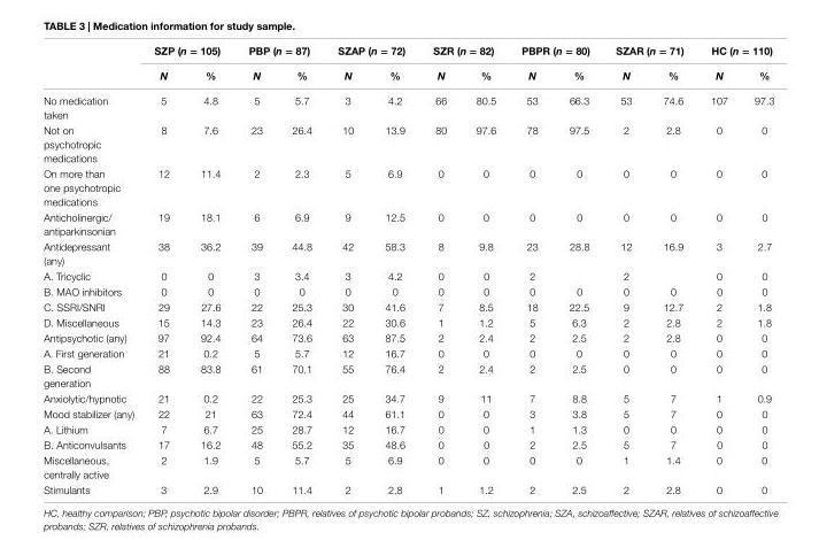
<table><thead><tr><td rowspan="2"></td><td colspan="2">sZP (n = 105)</td><td colspan="2">PBP (n = 87)</td><td colspan="2">sZaP (n = 72)</td><td colspan="2">sZr (n = 82)</td><td colspan="2">PBPr (n = 80)</td><td colspan="2">sZar (n = 71)</td><td colspan="2">hc (n = 110)</td></tr><tr><td>N</td><td>%</td><td>N</td><td>%</td><td>N</td><td>%</td><td>N</td><td>%</td><td>N</td><td>%</td><td>N</td><td>%</td><td>N</td><td>%</td></tr></thead><tbody><tr><td>No medication taken</td><td>5</td><td>4.8</td><td>5</td><td>5.7</td><td>3</td><td>4.2</td><td>66</td><td>80.5</td><td>53</td><td>66.3</td><td>53</td><td>74.6</td><td>107</td><td>97.3</td></tr><tr><td>Not on psychotropic medications</td><td>8</td><td>7.6</td><td>23</td><td>26.4</td><td>10</td><td>13.9</td><td>80</td><td>97.6</td><td>78</td><td>97.5</td><td>2</td><td>2.8</td><td>0</td><td>0</td></tr><tr><td>On more than one psychotropic medications</td><td>12</td><td>11.4</td><td>2</td><td>2.3</td><td>5</td><td>6.9</td><td>0</td><td>0</td><td>0</td><td>0</td><td>0</td><td>0</td><td>0</td><td>0</td></tr><tr><td>Anticholinergic/ antiparkinsonian</td><td>19</td><td>18.1</td><td>6</td><td>6.9</td><td>9</td><td>12.5</td><td>0</td><td>0</td><td>0</td><td>0</td><td>0</td><td>0</td><td>0</td><td>0</td></tr><tr><td>Antidepressant (any)</td><td>38</td><td>36.2</td><td>39</td><td>44.8</td><td>42</td><td>58.3</td><td>8</td><td>9.8</td><td>23</td><td>28.8</td><td>12</td><td>16.9</td><td>3</td><td>2.7</td></tr><tr><td>A. Tricyclic</td><td>0</td><td>0</td><td>3</td><td>3.4</td><td>3</td><td>4.2</td><td>0</td><td>0</td><td>2</td><td></td><td>2</td><td></td><td>0</td><td>0</td></tr><tr><td>B. MAO inhibitors</td><td>0</td><td>0</td><td>0</td><td>0</td><td>0</td><td>0</td><td>0</td><td>0</td><td>0</td><td>0</td><td>0</td><td>0</td><td>0</td><td>0</td></tr><tr><td>C. SSRI/SNRI</td><td>29</td><td>27.6</td><td>22</td><td>25.3</td><td>30</td><td>41.6</td><td>7</td><td>8.5</td><td>18</td><td>22.5</td><td>9</td><td>12.7</td><td>2</td><td>1.8</td></tr><tr><td>D. Miscellaneous</td><td>15</td><td>14.3</td><td>23</td><td>26.4</td><td>22</td><td>30.6</td><td>1</td><td>1.2</td><td>5</td><td>6.3</td><td>2</td><td>2.8</td><td>2</td><td>1.8</td></tr><tr><td>Antipsychotic (any)</td><td>97</td><td>92.4</td><td>64</td><td>73.6</td><td>63</td><td>87.5</td><td>2</td><td>2.4</td><td>2</td><td>2.5</td><td>2</td><td>2.8</td><td>0</td><td>0</td></tr><tr><td>A. First generation</td><td>21</td><td>0.2</td><td>5</td><td>5.7</td><td>12</td><td>16.7</td><td>0</td><td>0</td><td>0</td><td>0</td><td>0</td><td>0</td><td>0</td><td>0</td></tr><tr><td>B. Second generation</td><td>88</td><td>83.8</td><td>61</td><td>70.1</td><td>55</td><td>76.4</td><td>2</td><td>2.4</td><td>2</td><td>2.5</td><td>0</td><td>0</td><td>0</td><td>0</td></tr><tr><td>Anxiolytic/hypnotic</td><td>21</td><td>0.2</td><td>22</td><td>25.3</td><td>25</td><td>34.7</td><td>9</td><td>11</td><td>7</td><td>8.8</td><td>5</td><td>7</td><td>1</td><td>0.9</td></tr><tr><td>Mood stabilizer (any)</td><td>22</td><td>21</td><td>63</td><td>72.4</td><td>44</td><td>61.1</td><td>0</td><td>0</td><td>3</td><td>3.8</td><td>5</td><td>7</td><td>0</td><td>0</td></tr><tr><td>A. Lithium</td><td>7</td><td>6.7</td><td>25</td><td>28.7</td><td>12</td><td>16.7</td><td>0</td><td>0</td><td>1</td><td>1.3</td><td>0</td><td>0</td><td>0</td><td>0</td></tr><tr><td>B. Anticonvulsants</td><td>17</td><td>16.2</td><td>48</td><td>55.2</td><td>35</td><td>48.6</td><td>0</td><td>0</td><td>2</td><td>2.5</td><td>5</td><td>7</td><td>0</td><td>0</td></tr><tr><td>Miscellaneous, centrally active</td><td>2</td><td>1.9</td><td>5</td><td>5.7</td><td>5</td><td>6.9</td><td>0</td><td>0</td><td>0</td><td>0</td><td>1</td><td>1.4</td><td>0</td><td>0</td></tr><tr><td>Stimulants</td><td>3</td><td>2.9</td><td>10</td><td>11.4</td><td>2</td><td>2.8</td><td>1</td><td>1.2</td><td>2</td><td>2.5</td><td>2</td><td>2.8</td><td>0</td><td>0</td></tr></tbody></table>